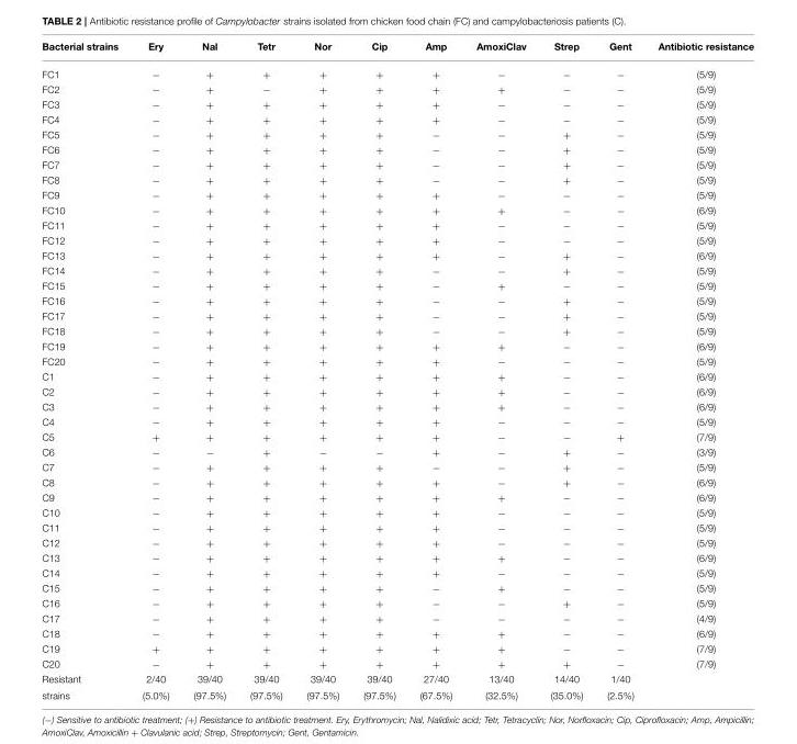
<table><thead><tr><td>Bacterial strains</td><td>Ery</td><td>Nal</td><td>Tetr</td><td>Nor</td><td>Cip</td><td>Amp</td><td>AmoxiClav</td><td>Strep</td><td>Gent</td><td>Antibiotic resistance</td></tr></thead><tbody><tr><td>FC1</td><td>−</td><td>+</td><td>+</td><td>+</td><td>+</td><td>+</td><td>−</td><td>−</td><td>−</td><td>(5/9)</td></tr><tr><td>FC2</td><td>−</td><td>+</td><td>−</td><td>+</td><td>+</td><td>+</td><td>+</td><td>−</td><td>−</td><td>(5/9)</td></tr><tr><td>FC3</td><td>−</td><td>+</td><td>+</td><td>+</td><td>+</td><td>+</td><td>−</td><td>−</td><td>−</td><td>(5/9)</td></tr><tr><td>FC4</td><td>−</td><td>+</td><td>+</td><td>+</td><td>+</td><td>+</td><td>−</td><td>−</td><td>−</td><td>(5/9)</td></tr><tr><td>FC5</td><td>−</td><td>+</td><td>+</td><td>+</td><td>+</td><td>−</td><td>−</td><td>+</td><td>−</td><td>(5/9)</td></tr><tr><td>FC6</td><td>−</td><td>+</td><td>+</td><td>+</td><td>+</td><td>−</td><td>−</td><td>+</td><td>−</td><td>(5/9)</td></tr><tr><td>FC7</td><td>−</td><td>+</td><td>+</td><td>+</td><td>+</td><td>−</td><td>−</td><td>+</td><td>−</td><td>(5/9)</td></tr><tr><td>FC8</td><td>−</td><td>+</td><td>+</td><td>+</td><td>+</td><td>−</td><td>−</td><td>+</td><td>−</td><td>(5/9)</td></tr><tr><td>FC9</td><td>−</td><td>+</td><td>+</td><td>+</td><td>+</td><td>+</td><td>−</td><td>−</td><td>−</td><td>(5/9)</td></tr><tr><td>FC10</td><td>−</td><td>+</td><td>+</td><td>+</td><td>+</td><td>+</td><td>+</td><td>−</td><td>−</td><td>(6/9)</td></tr><tr><td>FC11</td><td>−</td><td>+</td><td>+</td><td>+</td><td>+</td><td>+</td><td>−</td><td>−</td><td>−</td><td>(5/9)</td></tr><tr><td>FC12</td><td>−</td><td>+</td><td>+</td><td>+</td><td>+</td><td>+</td><td>−</td><td>−</td><td>−</td><td>(5/9)</td></tr><tr><td>FC13</td><td>−</td><td>+</td><td>+</td><td>+</td><td>+</td><td>+</td><td>−</td><td>+</td><td>−</td><td>(6/9)</td></tr><tr><td>FC14</td><td>−</td><td>+</td><td>+</td><td>+</td><td>+</td><td>−</td><td>−</td><td>+</td><td>−</td><td>(5/9)</td></tr><tr><td>FC15</td><td>−</td><td>+</td><td>+</td><td>+</td><td>+</td><td>−</td><td>+</td><td>−</td><td>−</td><td>(5/9)</td></tr><tr><td>FC16</td><td>−</td><td>+</td><td>+</td><td>+</td><td>+</td><td>−</td><td>−</td><td>+</td><td>−</td><td>(5/9)</td></tr><tr><td>FC17</td><td>−</td><td>+</td><td>+</td><td>+</td><td>+</td><td>−</td><td>−</td><td>+</td><td>−</td><td>(5/9)</td></tr><tr><td>FC18</td><td>−</td><td>+</td><td>+</td><td>+</td><td>+</td><td>−</td><td>−</td><td>+</td><td>−</td><td>(5/9)</td></tr><tr><td>FC19</td><td>−</td><td>+</td><td>+</td><td>+</td><td>+</td><td>+</td><td>+</td><td>−</td><td>−</td><td>(6/9)</td></tr><tr><td>FC20</td><td>−</td><td>+</td><td>+</td><td>+</td><td>+</td><td>+</td><td>−</td><td>−</td><td>−</td><td>(5/9)</td></tr><tr><td>C1</td><td>−</td><td>+</td><td>+</td><td>+</td><td>+</td><td>+</td><td>+</td><td>−</td><td>−</td><td>(6/9)</td></tr><tr><td>C2</td><td>−</td><td>+</td><td>+</td><td>+</td><td>+</td><td>+</td><td>+</td><td>−</td><td>−</td><td>(6/9)</td></tr><tr><td>C3</td><td>−</td><td>+</td><td>+</td><td>+</td><td>+</td><td>+</td><td>+</td><td>−</td><td>−</td><td>(6/9)</td></tr><tr><td>C4</td><td>−</td><td>+</td><td>+</td><td>+</td><td>+</td><td>+</td><td>−</td><td>−</td><td>−</td><td>(5/9)</td></tr><tr><td>C5</td><td>+</td><td>+</td><td>+</td><td>+</td><td>+</td><td>+</td><td>−</td><td>−</td><td>+</td><td>(7/9)</td></tr><tr><td>C6</td><td>−</td><td>−</td><td>+</td><td>−</td><td>−</td><td>+</td><td>−</td><td>+</td><td>−</td><td>(3/9)</td></tr><tr><td>C7</td><td>−</td><td>+</td><td>+</td><td>+</td><td>+</td><td>−</td><td>−</td><td>+</td><td>−</td><td>(5/9)</td></tr><tr><td>C8</td><td>−</td><td>+</td><td>+</td><td>+</td><td>+</td><td>+</td><td>−</td><td>+</td><td>−</td><td>(6/9)</td></tr><tr><td>C9</td><td>−</td><td>+</td><td>+</td><td>+</td><td>+</td><td>+</td><td>+</td><td>−</td><td>−</td><td>(6/9)</td></tr><tr><td>C10</td><td>−</td><td>+</td><td>+</td><td>+</td><td>+</td><td>+</td><td>−</td><td>−</td><td>−</td><td>(5/9)</td></tr><tr><td>C11</td><td>−</td><td>+</td><td>+</td><td>+</td><td>+</td><td>+</td><td>−</td><td>−</td><td>−</td><td>(5/9)</td></tr><tr><td>C12</td><td>−</td><td>+</td><td>+</td><td>+</td><td>+</td><td>+</td><td>−</td><td>−</td><td>−</td><td>(5/9)</td></tr><tr><td>C13</td><td>−</td><td>+</td><td>+</td><td>+</td><td>+</td><td>+</td><td>+</td><td>−</td><td>−</td><td>(6/9)</td></tr><tr><td>C14</td><td>−</td><td>+</td><td>+</td><td>+</td><td>+</td><td>+</td><td>−</td><td>−</td><td>−</td><td>(5/9)</td></tr><tr><td>C15</td><td>−</td><td>+</td><td>+</td><td>+</td><td>+</td><td>−</td><td>+</td><td>−</td><td>−</td><td>(5/9)</td></tr><tr><td>C16</td><td>−</td><td>+</td><td>+</td><td>+</td><td>+</td><td>−</td><td>−</td><td>+</td><td>−</td><td>(5/9)</td></tr><tr><td>C17</td><td>−</td><td>+</td><td>+</td><td>+</td><td>+</td><td>−</td><td>−</td><td>−</td><td>−</td><td>(4/9)</td></tr><tr><td>C18</td><td>−</td><td>+</td><td>+</td><td>+</td><td>+</td><td>+</td><td>+</td><td>−</td><td>−</td><td>(6/9)</td></tr><tr><td>C19</td><td>+</td><td>+</td><td>+</td><td>+</td><td>+</td><td>+</td><td>+</td><td>−</td><td>−</td><td>(7/9)</td></tr><tr><td>C20</td><td>−</td><td>+</td><td>+</td><td>+</td><td>+</td><td>+</td><td>+</td><td>+</td><td>−</td><td>(7/9)</td></tr><tr><td>Resistant</td><td>2/40</td><td>39/40</td><td>39/40</td><td>39/40</td><td>39/40</td><td>27/40</td><td>13/40</td><td>14/40</td><td>1/40</td><td></td></tr><tr><td>strains</td><td>(5.0%)</td><td>(97.5%)</td><td>(97.5%)</td><td>(97.5%)</td><td>(97.5%)</td><td>(67.5%)</td><td>(32.5%)</td><td>(35.0%)</td><td>(2.5%)</td><td></td></tr></tbody></table>